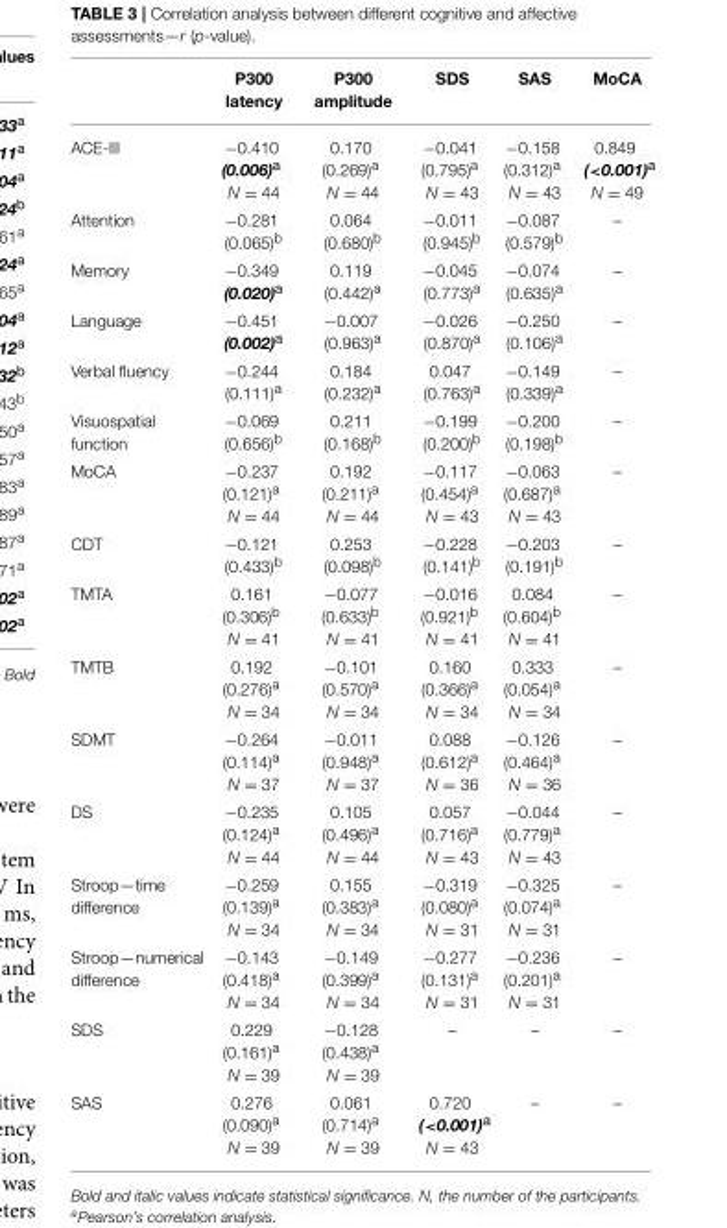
<table><thead><tr><td></td><td>P300 latency</td><td>P300 amplitude</td><td>SDS</td><td>SAS</td><td>MoCA</td></tr></thead><tbody><tr><td>ACE-III</td><td>−0.410 (0.006)<sup>a</sup> N = 44</td><td>0.170 (0.269)<sup>a</sup> N = 44</td><td>−0.041 (0.795)<sup>a</sup> N = 43</td><td>−0.158 (0.312)<sup>a</sup> N = 43</td><td>0.849 (&lt;0.001)<sup>a</sup> N = 49</td></tr><tr><td>Attention</td><td>−0.281 (0.065)<sup>b</sup></td><td>0.064 (0.680)<sup>b</sup></td><td>−0.011 (0.945)<sup>b</sup></td><td>−0.087 (0.579)<sup>b</sup></td><td>–</td></tr><tr><td>Memory</td><td>−0.349 (0.020)<sup>a</sup></td><td>0.119 (0.442)<sup>a</sup></td><td>−0.045 (0.773)<sup>a</sup></td><td>−0.074 (0.635)<sup>a</sup></td><td>–</td></tr><tr><td>Language</td><td>−0.451 (0.002)<sup>a</sup></td><td>−0.007 (0.963)<sup>a</sup></td><td>−0.026 (0.870)<sup>a</sup></td><td>−0.250 (0.106)<sup>a</sup></td><td>–</td></tr><tr><td>Verbal fluency</td><td>−0.244 (0.111)<sup>a</sup></td><td>0.184 (0.232)<sup>a</sup></td><td>0.047 (0.763)<sup>a</sup></td><td>−0.149 (0.339)<sup>a</sup></td><td>–</td></tr><tr><td>Visuospatial function</td><td>−0.069 (0.656)<sup>b</sup></td><td>0.211 (0.168)<sup>b</sup></td><td>−0.199 (0.200)<sup>b</sup></td><td>−0.200 (0.198)<sup>b</sup></td><td>–</td></tr><tr><td>MoCA</td><td>−0.237 (0.121)<sup>a</sup> N = 44</td><td>0.192 (0.211)<sup>a</sup> N = 44</td><td>−0.117 (0.454)<sup>a</sup> N = 43</td><td>−0.063 (0.687)<sup>a</sup> N = 43</td><td>–</td></tr><tr><td>CDT</td><td>−0.121 (0.433)<sup>b</sup></td><td>0.253 (0.098)<sup>b</sup></td><td>−0.228 (0.141)<sup>b</sup></td><td>−0.203 (0.191)<sup>b</sup></td><td>–</td></tr><tr><td>TMTA</td><td>0.161 (0.306)<sup>b</sup> N = 41</td><td>−0.077 (0.633)<sup>b</sup> N = 41</td><td>−0.016 (0.921)<sup>b</sup> N = 41</td><td>0.084 (0.604)<sup>b</sup> N = 41</td><td>–</td></tr><tr><td>TMTB</td><td>0.192 (0.276)<sup>a</sup> N = 34</td><td>−0.101 (0.570)<sup>a</sup> N = 34</td><td>0.160 (0.366)<sup>a</sup> N = 34</td><td>0.333 (0.054)<sup>a</sup> N = 34</td><td>–</td></tr><tr><td>SDMT</td><td>−0.264 (0.114)<sup>a</sup> N = 37</td><td>−0.011 (0.948)<sup>a</sup> N = 37</td><td>0.088 (0.612)<sup>a</sup> N = 36</td><td>−0.126 (0.464)<sup>a</sup> N = 36</td><td>–</td></tr><tr><td>DS</td><td>−0.235 (0.124)<sup>a</sup> N = 44</td><td>0.105 (0.496)<sup>a</sup> N = 44</td><td>0.057 (0.716)<sup>a</sup> N = 43</td><td>−0.044 (0.779)<sup>a</sup> N = 43</td><td>–</td></tr><tr><td>Stroop—time difference</td><td>−0.259 (0.139)<sup>a</sup> N = 34</td><td>0.155 (0.383)<sup>a</sup> N = 34</td><td>−0.319 (0.080)<sup>a</sup> N = 31</td><td>−0.325 (0.074)<sup>a</sup> N = 31</td><td>–</td></tr><tr><td>Stroop—numerical difference</td><td>−0.143 (0.418)<sup>a</sup> N = 34</td><td>−0.149 (0.399)<sup>a</sup> N = 34</td><td>−0.277 (0.131)<sup>a</sup> N = 31</td><td>−0.236 (0.201)<sup>a</sup> N = 31</td><td>–</td></tr><tr><td>SDS</td><td>0.229 (0.161)<sup>a</sup> N = 39</td><td>−0.128 (0.438)<sup>a</sup> N = 39</td><td>–</td><td>–</td><td>–</td></tr><tr><td>SAS</td><td>0.276 (0.090)<sup>a</sup> N = 39</td><td>0.061 (0.714)<sup>a</sup> N = 39</td><td>0.720 (&lt;0.001)<sup>a</sup> N = 43</td><td>–</td><td>–</td></tr></tbody></table>